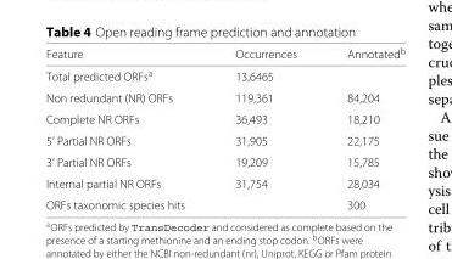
<table><thead><tr><td>Feature</td><td>Occurrences</td><td>Annotated<sup>b</sup></td></tr></thead><tbody><tr><td>Total predicted ORFs<sup>a</sup></td><td>13,6465</td><td></td></tr><tr><td>Non redundant (NR) ORFs</td><td>119,361</td><td>84,204</td></tr><tr><td>Complete NR ORFs</td><td>36,493</td><td>18,210</td></tr><tr><td>5’ Partial NR ORFs</td><td>31,905</td><td>22,175</td></tr><tr><td>3’ Partial NR ORFs</td><td>19,209</td><td>15,785</td></tr><tr><td>Internal partial NR ORFs</td><td>31,754</td><td>28,034</td></tr><tr><td>ORFs taxonomic species hits</td><td></td><td>300</td></tr></tbody></table>